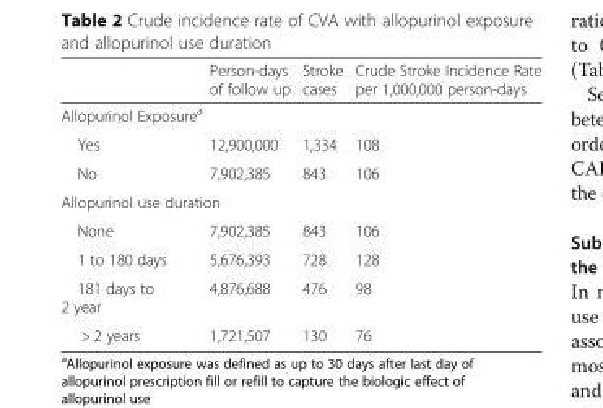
<table><thead><tr><td></td><td>Person-days of follow up</td><td>Stroke cases</td><td>Crude Stroke Incidence Rate per 1,000,000 person-days</td></tr></thead><tbody><tr><td colspan="4">Allopurinol Exposure<sup>a</sup></td></tr><tr><td>Yes</td><td>12,900,000</td><td>1,334</td><td>108</td></tr><tr><td>No</td><td>7,902,385</td><td>843</td><td>106</td></tr><tr><td colspan="4">Allopurinol use duration</td></tr><tr><td>None</td><td>7,902,385</td><td>843</td><td>106</td></tr><tr><td>1 to 180 days</td><td>5,676,393</td><td>728</td><td>128</td></tr><tr><td>181 days to 2 year</td><td>4,876,688</td><td>476</td><td>98</td></tr><tr><td>&gt; 2 years</td><td>1,721,507</td><td>130</td><td>76</td></tr></tbody></table>